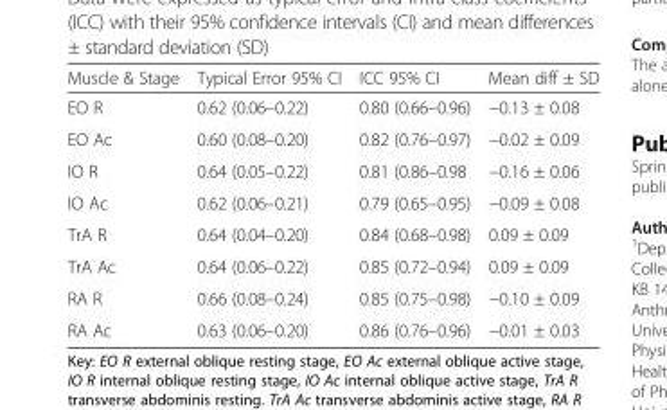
<table><thead><tr><td>Muscle &amp; Stage</td><td>Typical Error 95% CI</td><td>ICC 95% CI</td><td>Mean diff ± SD</td></tr></thead><tbody><tr><td>EO R</td><td>0.62 (0.06–0.22)</td><td>0.80 (0.66–0.96)</td><td>−0.13 ± 0.08</td></tr><tr><td>EO Ac</td><td>0.60 (0.08–0.20)</td><td>0.82 (0.76–0.97)</td><td>−0.02 ± 0.09</td></tr><tr><td>IO R</td><td>0.64 (0.05–0.22)</td><td>0.81 (0.86–0.98</td><td>−0.16 ± 0.06</td></tr><tr><td>IO Ac</td><td>0.62 (0.06–0.21)</td><td>0.79 (0.65–0.95)</td><td>−0.09 ± 0.08</td></tr><tr><td>TrA R</td><td>0.64 (0.04–0.20)</td><td>0.84 (0.68–0.98)</td><td>0.09 ± 0.09</td></tr><tr><td>TrA Ac</td><td>0.64 (0.06–0.22)</td><td>0.85 (0.72–0.94)</td><td>0.09 ± 0.09</td></tr><tr><td>RA R</td><td>0.66 (0.08–0.24)</td><td>0.85 (0.75–0.98)</td><td>−0.10 ± 0.09</td></tr><tr><td>RA Ac</td><td>0.63 (0.06–0.20)</td><td>0.86 (0.76–0.96)</td><td>−0.01 ± 0.03</td></tr></tbody></table>